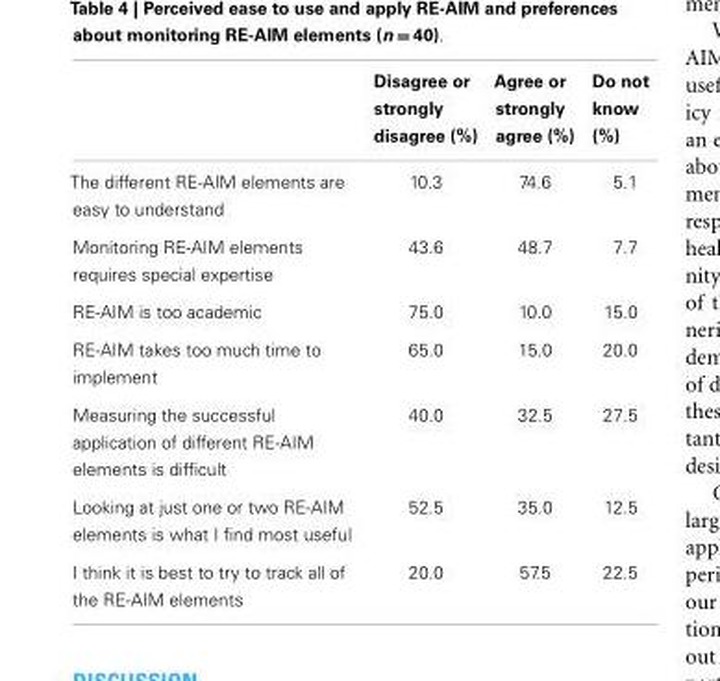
<table><thead><tr><td></td><td>Disagree or strongly disagree (%)</td><td>Agree or strongly agree (%)</td><td>Do not know (%)</td></tr></thead><tbody><tr><td>The different RE-AIM elements are easy to understand</td><td>10.3</td><td>74.6</td><td>5.1</td></tr><tr><td>Monitoring RE-AIM elements requires special expertise</td><td>43.6</td><td>48.7</td><td>7.7</td></tr><tr><td>RE-AIM is too academic</td><td>75.0</td><td>10.0</td><td>15.0</td></tr><tr><td>RE-AIM takes too much time to implement</td><td>65.0</td><td>15.0</td><td>20.0</td></tr><tr><td>Measuring the successful application of different RE-AIM elements is difficult</td><td>40.0</td><td>32.5</td><td>27.5</td></tr><tr><td>Looking at just one or two RE-AIM elements is what I find most useful</td><td>52.5</td><td>35.0</td><td>12.5</td></tr><tr><td>I think it is best to try to track all of the RE-AIM elements</td><td>20.0</td><td>57.5</td><td>22.5</td></tr></tbody></table>